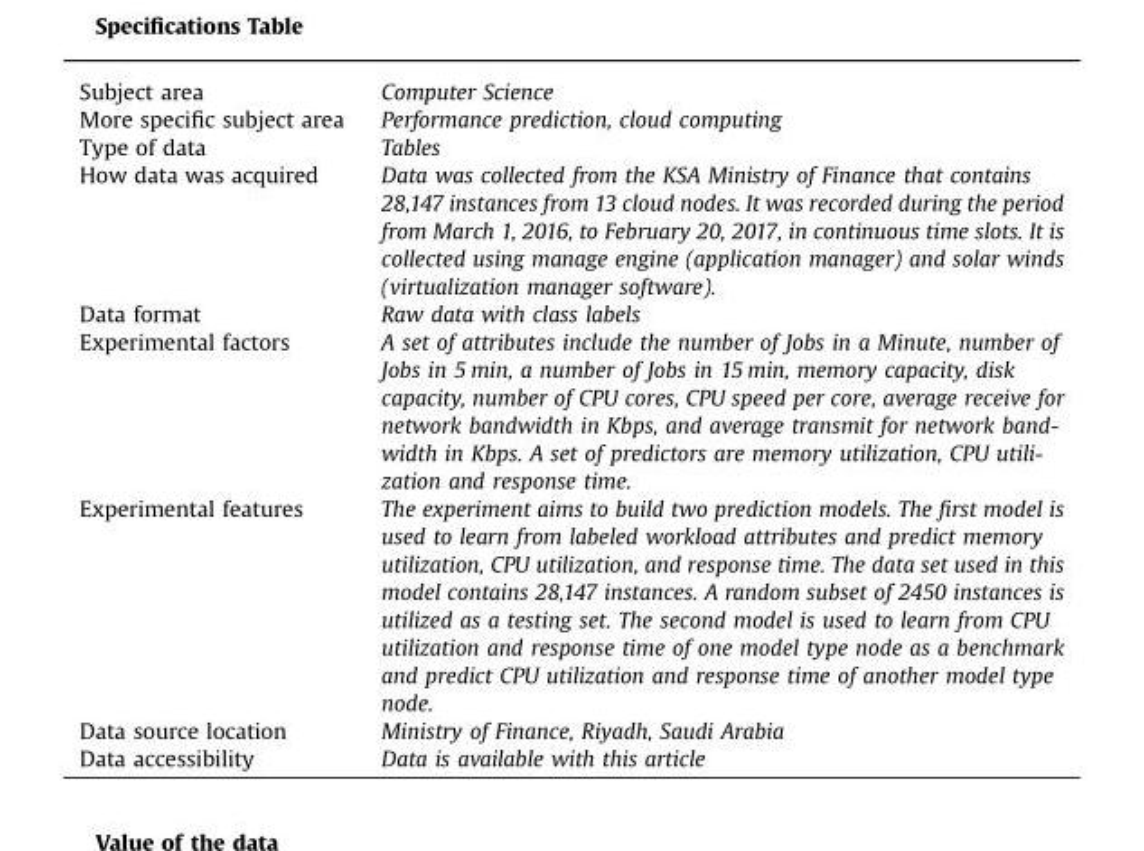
<table><tbody><tr><td>Subject area</td><td>Computer Science</td></tr><tr><td>More specific subject area</td><td>Performance prediction, cloud computing</td></tr><tr><td>Type of data</td><td>Tables</td></tr><tr><td>How data was acquired</td><td>Data was collected from the KSA Ministry of Finance that contains 28,147 instances from 13 cloud nodes. It was recorded during the period from March 1, 2016, to February 20, 2017, in continuous time slots. It is collected using manage engine (application manager) and solar winds (virtualization manager software).</td></tr><tr><td>Data format</td><td>Raw data with class labels</td></tr><tr><td>Experimental factors</td><td>A set of attributes include the number of Jobs in a Minute, number of Jobs in 5 min, a number of Jobs in 15 min, memory capacity, disk capacity, number of CPU cores, CPU speed per core, average receive for network bandwidth in Kbps, and average transmit for network band- width in Kbps. A set of predictors are memory utilization, CPU utili- zation and response time.</td></tr><tr><td>Experimental features</td><td>The experiment aims to build two prediction models. The first model is used to learn from labeled workload attributes and predict memory utilization, CPU utilization, and response time. The data set used in this model contains 28,147 instances. A random subset of 2450 instances is utilized as a testing set. The second model is used to learn from CPU utilization and response time of one model type node as a benchmark and predict CPU utilization and response time of another model type node.</td></tr><tr><td>Data source location</td><td>Ministry of Finance, Riyadh, Saudi Arabia</td></tr><tr><td>Data accessibility</td><td>Data is available with this article</td></tr></tbody></table>